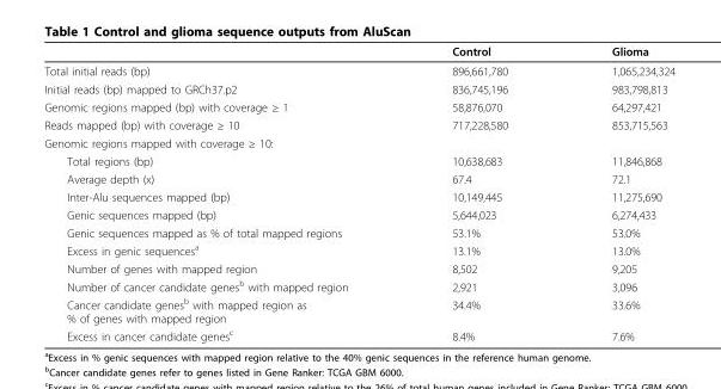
<table><thead><tr><td></td><td>Control</td><td>Glioma</td></tr></thead><tbody><tr><td>Total initial reads (bp)</td><td>896,661,780</td><td>1,065,234,324</td></tr><tr><td>Initial reads (bp) mapped to GRCh37.p2</td><td>836,745,196</td><td>983,798,813</td></tr><tr><td>Genomic regions mapped (bp) with coverage ≥ 1</td><td>58,876,070</td><td>64,297,421</td></tr><tr><td>Reads mapped (bp) with coverage ≥ 10</td><td>717,228,580</td><td>853,715,563</td></tr><tr><td colspan="3">Genomic regions mapped with coverage ≥ 10:</td></tr><tr><td>Total regions (bp)</td><td>10,638,683</td><td>11,846,868</td></tr><tr><td>Average depth (x)</td><td>67.4</td><td>72.1</td></tr><tr><td>Inter-Alu sequences mapped (bp)</td><td>10,149,445</td><td>11,275,690</td></tr><tr><td>Genic sequences mapped (bp)</td><td>5,644,023</td><td>6,274,433</td></tr><tr><td>Genic sequences mapped as % of total mapped regions</td><td>53.1%</td><td>53.0%</td></tr><tr><td>Excess in genic sequences<sup>a</sup></td><td>13.1%</td><td>13.0%</td></tr><tr><td>Number of genes with mapped region</td><td>8,502</td><td>9,205</td></tr><tr><td>Number of cancer candidate genes<sup>b</sup> with mapped region</td><td>2,921</td><td>3,096</td></tr><tr><td>Cancer candidate genes<sup>b</sup> with mapped region as % of genes with mapped region</td><td>34.4%</td><td>33.6%</td></tr><tr><td>Excess in cancer candidate genes<sup>c</sup></td><td>8.4%</td><td>7.6%</td></tr></tbody></table>